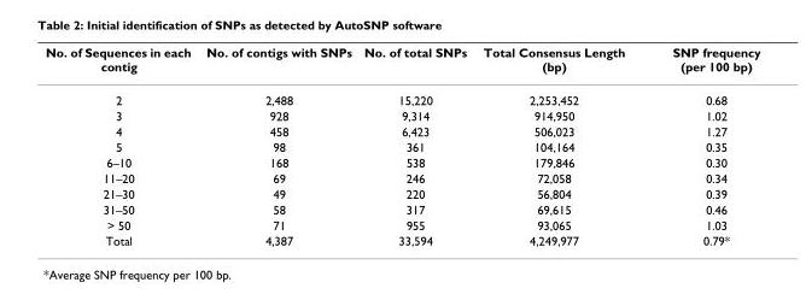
<table><thead><tr><td>No. of Sequences in each contig</td><td>No. of contigs with SNPs</td><td>No. of total SNPs</td><td>Total Consensus Length (bp)</td><td>SNP frequency (per 100 bp)</td></tr></thead><tbody><tr><td>2</td><td>2,488</td><td>15,220</td><td>2,253,452</td><td>0.68</td></tr><tr><td>3</td><td>928</td><td>9,314</td><td>914,950</td><td>1.02</td></tr><tr><td>4</td><td>458</td><td>6,423</td><td>506,023</td><td>1.27</td></tr><tr><td>5</td><td>98</td><td>361</td><td>104,164</td><td>0.35</td></tr><tr><td>6–10</td><td>168</td><td>538</td><td>179,846</td><td>0.30</td></tr><tr><td>11–20</td><td>69</td><td>246</td><td>72,058</td><td>0.34</td></tr><tr><td>21–30</td><td>49</td><td>220</td><td>56,804</td><td>0.39</td></tr><tr><td>31–50</td><td>58</td><td>317</td><td>69,615</td><td>0.46</td></tr><tr><td>&gt; 50</td><td>71</td><td>955</td><td>93,065</td><td>1.03</td></tr><tr><td>Total</td><td>4,387</td><td>33,594</td><td>4,249,977</td><td>0.79*</td></tr></tbody></table>